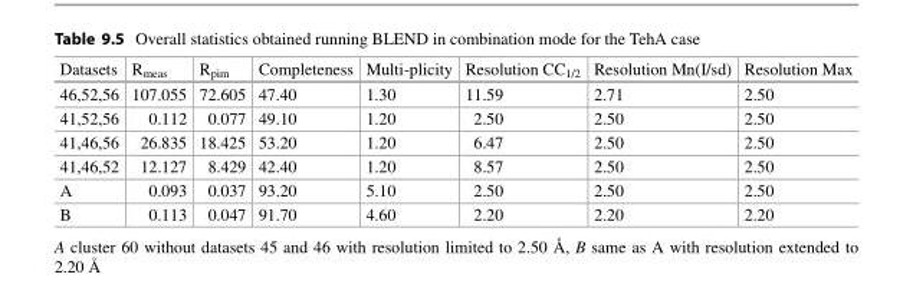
<table><thead><tr><td>Datasets</td><td>R<sub>meas</sub></td><td>R<sub>pim</sub></td><td>Completeness</td><td>Multi-plicity</td><td>Resolution CC<sub>1/2</sub></td><td>Resolution Mn(I/sd)</td><td>Resolution Max</td></tr></thead><tbody><tr><td>46,52,56</td><td>107.055</td><td>72.605</td><td>47.40</td><td>1.30</td><td>11.59</td><td>2.71</td><td>2.50</td></tr><tr><td>41,52,56</td><td>0.112</td><td>0.077</td><td>49.10</td><td>1.20</td><td>2.50</td><td>2.50</td><td>2.50</td></tr><tr><td>41,46,56</td><td>26.835</td><td>18.425</td><td>53.20</td><td>1.20</td><td>6.47</td><td>2.50</td><td>2.50</td></tr><tr><td>41,46,52</td><td>12.127</td><td>8.429</td><td>42.40</td><td>1.20</td><td>8.57</td><td>2.50</td><td>2.50</td></tr><tr><td>A</td><td>0.093</td><td>0.037</td><td>93.20</td><td>5.10</td><td>2.50</td><td>2.50</td><td>2.50</td></tr><tr><td>B</td><td>0.113</td><td>0.047</td><td>91.70</td><td>4.60</td><td>2.20</td><td>2.20</td><td>2.20</td></tr></tbody></table>